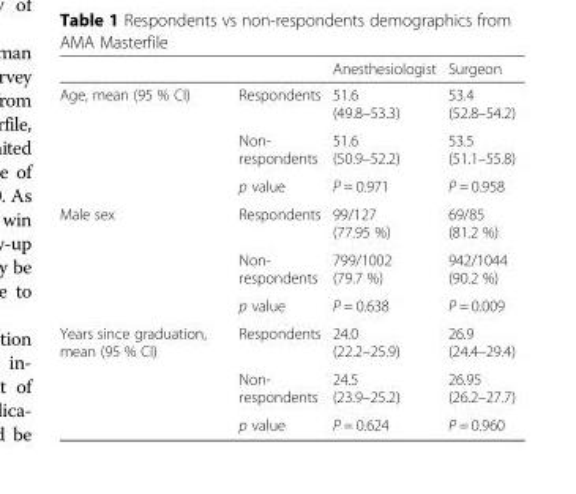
<table><thead><tr><td></td><td></td><td>Anesthesiologist</td><td>Surgeon</td></tr></thead><tbody><tr><td rowspan="3">Age, mean (95 % CI)</td><td>Respondents</td><td>51.6 (49.8–53.3)</td><td>53.4 (52.8–54.2)</td></tr><tr><td>Non- respondents</td><td>51.6 (50.9–52.2)</td><td>53.5 (51.1–55.8)</td></tr><tr><td>p value</td><td>P = 0.971</td><td>P = 0.958</td></tr><tr><td rowspan="3">Male sex</td><td>Respondents</td><td>99/127 (77.95 %)</td><td>69/85 (81.2 %)</td></tr><tr><td>Non- respondents</td><td>799/1002 (79.7 %)</td><td>942/1044 (90.2 %)</td></tr><tr><td>p value</td><td>P = 0.638</td><td>P = 0.009</td></tr><tr><td rowspan="3">Years since graduation, mean (95 % CI)</td><td>Respondents</td><td>24.0 (22.2–25.9)</td><td>26.9 (24.4–29.4)</td></tr><tr><td>Non- respondents</td><td>24.5 (23.9–25.2)</td><td>26.95 (26.2–27.7)</td></tr><tr><td>p value</td><td>P = 0.624</td><td>P = 0.960</td></tr></tbody></table>